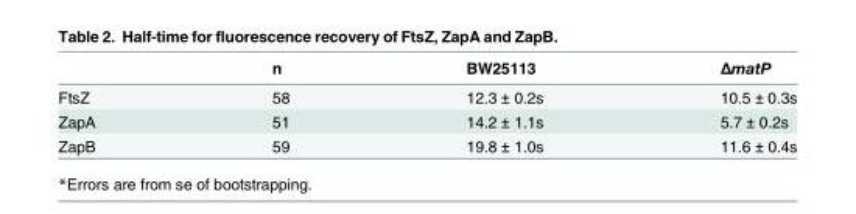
<table><thead><tr><td></td><td>n</td><td>BW25113</td><td>ΔmatP</td></tr></thead><tbody><tr><td>FtsZ</td><td>58</td><td>12.3 ± 0.2s</td><td>10.5 ± 0.3s</td></tr><tr><td>ZapA</td><td>51</td><td>14.2 ± 1.1s</td><td>5.7 ± 0.2s</td></tr><tr><td>ZapB</td><td>59</td><td>19.8 ± 1.0s</td><td>11.6 ± 0.4s</td></tr></tbody></table>